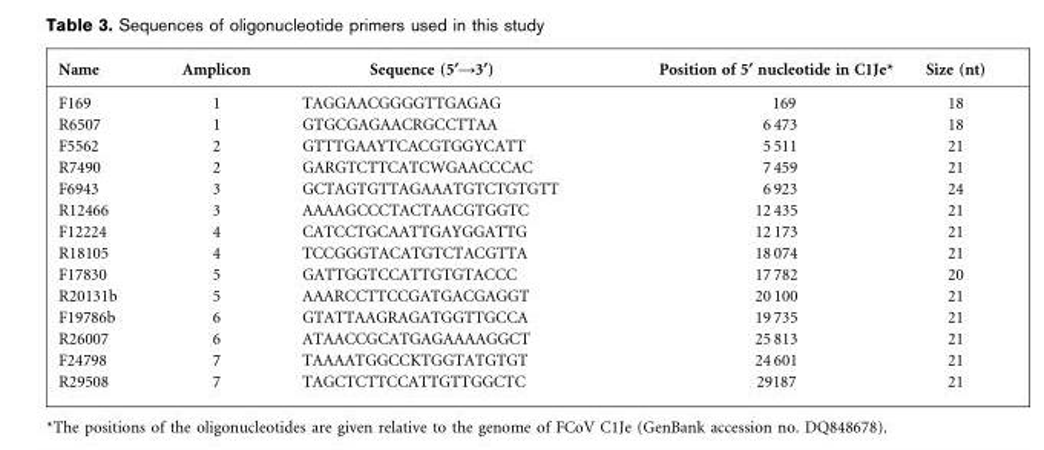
<table><thead><tr><td>Name</td><td>Amplicon</td><td>Sequence (5§A3§)</td><td>Position of 5§ nucleotide in C1Je*</td><td>Size (nt)</td></tr></thead><tbody><tr><td>F169</td><td>1</td><td>TAGGAACGGGGTTGAGAG</td><td>169</td><td>18</td></tr><tr><td>R6507</td><td>1</td><td>GTGCGAGAACRGCCTTAA</td><td>6 473</td><td>18</td></tr><tr><td>F5562</td><td>2</td><td>GTTTGAAYTCACGTGGYCATT</td><td>5 511</td><td>21</td></tr><tr><td>R7490</td><td>2</td><td>GARGTCTTCATCWGAACCCAC</td><td>7 459</td><td>21</td></tr><tr><td>F6943</td><td>3</td><td>GCTAGTGTTAGAAATGTCTGTGTT</td><td>6 923</td><td>24</td></tr><tr><td>R12466</td><td>3</td><td>AAAAGCCCTACTAACGTGGTC</td><td>12 435</td><td>21</td></tr><tr><td>F12224</td><td>4</td><td>CATCCTGCAATTGAYGGATTG</td><td>12 173</td><td>21</td></tr><tr><td>R18105</td><td>4</td><td>TCCGGGTACATGTCTACGTTA</td><td>18 074</td><td>21</td></tr><tr><td>F17830</td><td>5</td><td>GATTGGTCCATTGTGTACCC</td><td>17 782</td><td>20</td></tr><tr><td>R20131b</td><td>5</td><td>AAARCCTTCCGATGACGAGGT</td><td>20 100</td><td>21</td></tr><tr><td>F19786b</td><td>6</td><td>GTATTAAGRAGATGGTTGCCA</td><td>19 735</td><td>21</td></tr><tr><td>R26007</td><td>6</td><td>ATAACCGCATGAGAAAAGGCT</td><td>25 813</td><td>21</td></tr><tr><td>F24798</td><td>7</td><td>TAAAATGGCCKTGGTATGTGT</td><td>24 601</td><td>21</td></tr><tr><td>R29508</td><td>7</td><td>TAGCTCTTCCATTGTTGGCTC</td><td>29187</td><td>21</td></tr></tbody></table>